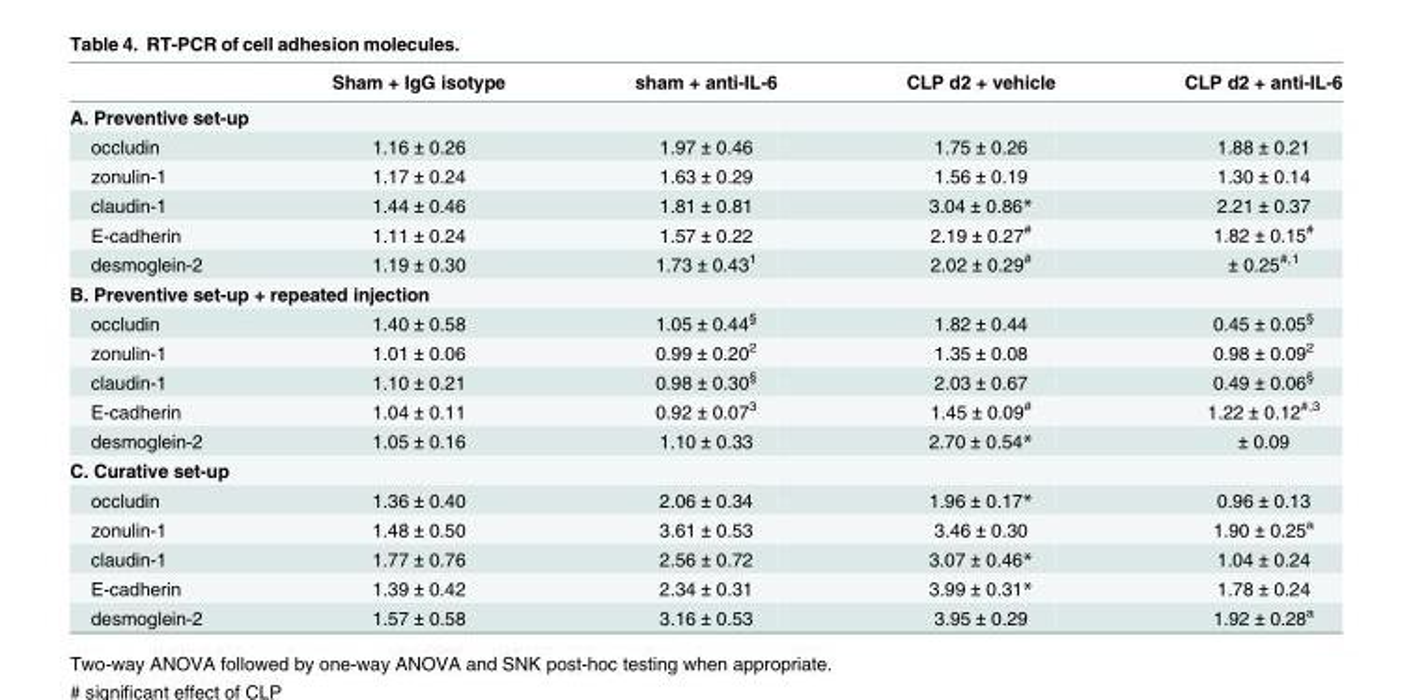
<table><thead><tr><td></td><td>Sham + IgG isotype</td><td>sham + anti-IL-6</td><td>CLP d2 + vehicle</td><td>CLP d2 + anti-IL-6</td></tr></thead><tbody><tr><td colspan="5">A. Preventive set-up</td></tr><tr><td>occludin</td><td>1.16 ± 0.26</td><td>1.97 ± 0.46</td><td>1.75 ± 0.26</td><td>1.88 ± 0.21</td></tr><tr><td>zonulin-1</td><td>1.17 ± 0.24</td><td>1.63 ± 0.29</td><td>1.56 ± 0.19</td><td>1.30 ± 0.14</td></tr><tr><td>claudin-1</td><td>1.44 ± 0.46</td><td>1.81 ± 0.81</td><td>3.04 ± 0.86*</td><td>2.21 ± 0.37</td></tr><tr><td>E-cadherin</td><td>1.11 ± 0.24</td><td>1.57 ± 0.22</td><td>2.19 ± 0.27<sup>#</sup></td><td>1.82 ± 0.15<sup>#</sup></td></tr><tr><td>desmoglein-2</td><td>1.19 ± 0.30</td><td>1.73 ± 0.43<sup>1</sup></td><td>2.02 ± 0.29<sup>#</sup></td><td>± 0.25<sup>#,1</sup></td></tr><tr><td colspan="5">B. Preventive set-up + repeated injection</td></tr><tr><td>occludin</td><td>1.40 ± 0.58</td><td>1.05 ± 0.44<sup>§</sup></td><td>1.82 ± 0.44</td><td>0.45 ± 0.05<sup>§</sup></td></tr><tr><td>zonulin-1</td><td>1.01 ± 0.06</td><td>0.99 ± 0.20<sup>2</sup></td><td>1.35 ± 0.08</td><td>0.98 ± 0.09<sup>2</sup></td></tr><tr><td>claudin-1</td><td>1.10 ± 0.21</td><td>0.98 ± 0.30<sup>§</sup></td><td>2.03 ± 0.67</td><td>0.49 ± 0.06<sup>§</sup></td></tr><tr><td>E-cadherin</td><td>1.04 ± 0.11</td><td>0.92 ± 0.07<sup>3</sup></td><td>1.45 ± 0.09<sup>#</sup></td><td>1.22 ± 0.12<sup>#,3</sup></td></tr><tr><td>desmoglein-2</td><td>1.05 ± 0.16</td><td>1.10 ± 0.33</td><td>2.70 ± 0.54*</td><td>± 0.09</td></tr><tr><td colspan="5">C. Curative set-up</td></tr><tr><td>occludin</td><td>1.36 ± 0.40</td><td>2.06 ± 0.34</td><td>1.96 ± 0.17*</td><td>0.96 ± 0.13</td></tr><tr><td>zonulin-1</td><td>1.48 ± 0.50</td><td>3.61 ± 0.53</td><td>3.46 ± 0.30</td><td>1.90 ± 0.25<sup>a</sup></td></tr><tr><td>claudin-1</td><td>1.77 ± 0.76</td><td>2.56 ± 0.72</td><td>3.07 ± 0.46*</td><td>1.04 ± 0.24</td></tr><tr><td>E-cadherin</td><td>1.39 ± 0.42</td><td>2.34 ± 0.31</td><td>3.99 ± 0.31*</td><td>1.78 ± 0.24</td></tr><tr><td>desmoglein-2</td><td>1.57 ± 0.58</td><td>3.16 ± 0.53</td><td>3.95 ± 0.29</td><td>1.92 ± 0.28<sup>a</sup></td></tr></tbody></table>